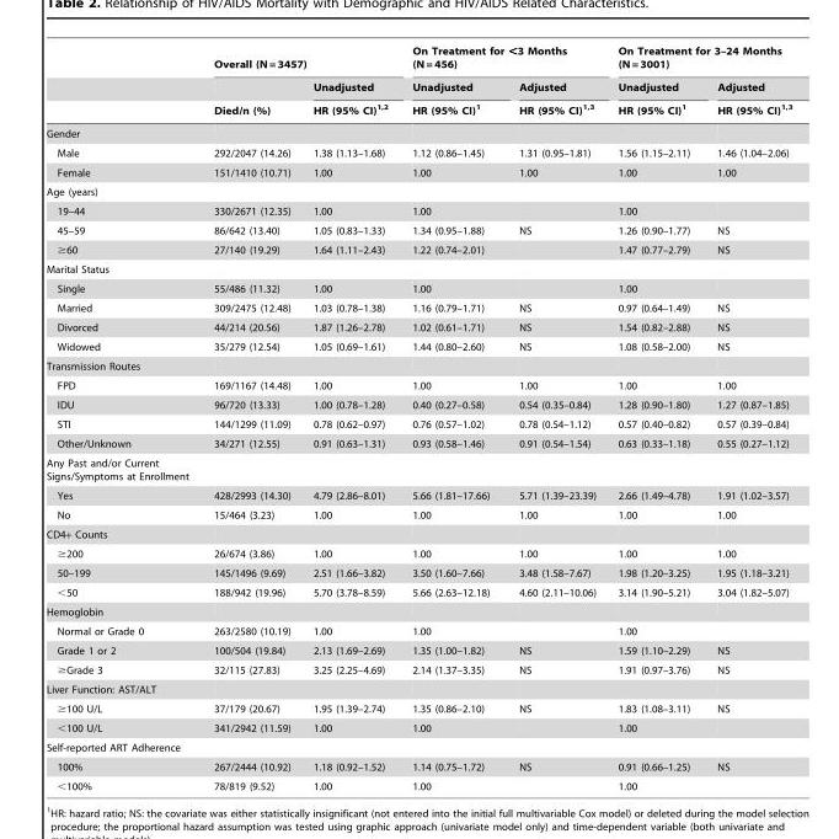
<table><thead><tr><td rowspan="3"></td><td colspan="2">Overall (N = 3457)</td><td colspan="2">On Treatment for &lt;3 Months (N = 456)</td><td colspan="2">On Treatment for 3–24 Months (N = 3001)</td></tr><tr><td rowspan="2">Died/n (%)</td><td rowspan="2">Unadjusted HR (95% CI)<sup>1,</sup>2</td><td rowspan="2">Unadjusted HR (95% CI)<sup>1</sup></td><td rowspan="2">Adjusted HR (95% CI)<sup>1,</sup>3</td><td rowspan="2">Unadjusted HR (95% CI)<sup>1</sup></td><td rowspan="2">Adjusted HR (95% CI)<sup>1,</sup>3</td></tr><tr></tr></thead><tbody><tr><td colspan="7">Gender</td></tr><tr><td>Male</td><td>292/2047 (14.26)</td><td>1.38 (1.13–1.68)</td><td>1.12 (0.86–1.45)</td><td>1.31 (0.95–1.81)</td><td>1.56 (1.15–2.11)</td><td>1.46 (1.04–2.06)</td></tr><tr><td>Female</td><td>151/1410 (10.71)</td><td>1.00</td><td>1.00</td><td>1.00</td><td>1.00</td><td>1.00</td></tr><tr><td colspan="7">Age (years)</td></tr><tr><td>19–44</td><td>330/2671 (12.35)</td><td>1.00</td><td>1.00</td><td></td><td>1.00</td><td></td></tr><tr><td>45–59</td><td>86/642 (13.40)</td><td>1.05 (0.83–1.33)</td><td>1.34 (0.95–1.88)</td><td>NS</td><td>1.26 (0.90–1.77)</td><td>NS</td></tr><tr><td>≥60</td><td>27/140 (19.29)</td><td>1.64 (1.11–2.43)</td><td>1.22 (0.74–2.01)</td><td></td><td>1.47 (0.77–2.79)</td><td>NS</td></tr><tr><td colspan="7">Marital Status</td></tr><tr><td>Single</td><td>55/486 (11.32)</td><td>1.00</td><td>1.00</td><td></td><td>1.00</td><td></td></tr><tr><td>Married</td><td>309/2475 (12.48)</td><td>1.03 (0.78–1.38)</td><td>1.16 (0.79–1.71)</td><td>NS</td><td>0.97 (0.64–1.49)</td><td>NS</td></tr><tr><td>Divorced</td><td>44/214 (20.56)</td><td>1.87 (1.26–2.78)</td><td>1.02 (0.61–1.71)</td><td>NS</td><td>1.54 (0.82–2.88)</td><td>NS</td></tr><tr><td>Widowed</td><td>35/279 (12.54)</td><td>1.05 (0.69–1.61)</td><td>1.44 (0.80–2.60)</td><td>NS</td><td>1.08 (0.58–2.00)</td><td>NS</td></tr><tr><td colspan="7">Transmission Routes</td></tr><tr><td>FPD</td><td>169/1167 (14.48)</td><td>1.00</td><td>1.00</td><td>1.00</td><td>1.00</td><td>1.00</td></tr><tr><td>IDU</td><td>96/720 (13.33)</td><td>1.00 (0.78–1.28)</td><td>0.40 (0.27–0.58)</td><td>0.54 (0.35–0.84)</td><td>1.28 (0.90–1.80)</td><td>1.27 (0.87–1.85)</td></tr><tr><td>STI</td><td>144/1299 (11.09)</td><td>0.78 (0.62–0.97)</td><td>0.76 (0.57–1.02)</td><td>0.78 (0.54–1.12)</td><td>0.57 (0.40–0.82)</td><td>0.57 (0.39–0.84)</td></tr><tr><td>Other/Unknown</td><td>34/271 (12.55)</td><td>0.91 (0.63–1.31)</td><td>0.93 (0.58–1.46)</td><td>0.91 (0.54–1.54)</td><td>0.63 (0.33–1.18)</td><td>0.55 (0.27–1.12)</td></tr><tr><td colspan="7">Any Past and/or Current Signs/Symptoms at Enrollment</td></tr><tr><td>Yes</td><td>428/2993 (14.30)</td><td>4.79 (2.86–8.01)</td><td>5.66 (1.81–17.66)</td><td>5.71 (1.39–23.39)</td><td>2.66 (1.49–4.78)</td><td>1.91 (1.02–3.57)</td></tr><tr><td>No</td><td>15/464 (3.23)</td><td>1.00</td><td>1.00</td><td>1.00</td><td>1.00</td><td>1.00</td></tr><tr><td colspan="7">CD4+ Counts</td></tr><tr><td>≥200</td><td>26/674 (3.86)</td><td>1.00</td><td>1.00</td><td>1.00</td><td>1.00</td><td>1.00</td></tr><tr><td>50–199</td><td>145/1496 (9.69)</td><td>2.51 (1.66–3.82)</td><td>3.50 (1.60–7.66)</td><td>3.48 (1.58–7.67)</td><td>1.98 (1.20–3.25)</td><td>1.95 (1.18–3.21)</td></tr><tr><td>&lt;50</td><td>188/942 (19.96)</td><td>5.70 (3.78–8.59)</td><td>5.66 (2.63–12.18)</td><td>4.60 (2.11–10.06)</td><td>3.14 (1.90–5.21)</td><td>3.04 (1.82–5.07)</td></tr><tr><td colspan="7">Hemoglobin</td></tr><tr><td>Normal or Grade 0</td><td>263/2580 (10.19)</td><td>1.00</td><td>1.00</td><td></td><td>1.00</td><td></td></tr><tr><td>Grade 1 or 2</td><td>100/504 (19.84)</td><td>2.13 (1.69–2.69)</td><td>1.35 (1.00–1.82)</td><td>NS</td><td>1.59 (1.10–2.29)</td><td>NS</td></tr><tr><td>≥Grade 3</td><td>32/115 (27.83)</td><td>3.25 (2.25–4.69)</td><td>2.14 (1.37–3.35)</td><td>NS</td><td>1.91 (0.97–3.76)</td><td>NS</td></tr><tr><td colspan="7">Liver Function: AST/ALT</td></tr><tr><td>≥100 U/L</td><td>37/179 (20.67)</td><td>1.95 (1.39–2.74)</td><td>1.35 (0.86–2.10)</td><td>NS</td><td>1.83 (1.08–3.11)</td><td>NS</td></tr><tr><td>&lt;100 U/L</td><td>341/2942 (11.59)</td><td>1.00</td><td>1.00</td><td></td><td>1.00</td><td></td></tr><tr><td colspan="7">Self-reported ART Adherence</td></tr><tr><td>100%</td><td>267/2444 (10.92)</td><td>1.18 (0.92–1.52)</td><td>1.14 (0.75–1.72)</td><td>NS</td><td>0.91 (0.66–1.25)</td><td>NS</td></tr><tr><td>&lt;100%</td><td>78/819 (9.52)</td><td>1.00</td><td>1.00</td><td></td><td>1.00</td><td></td></tr></tbody></table>